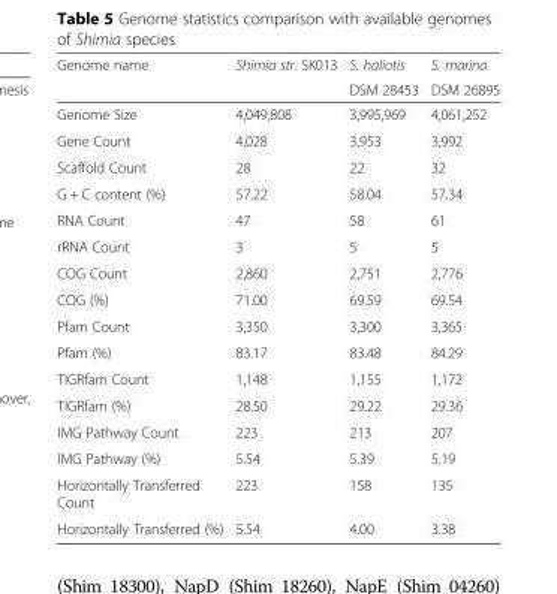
<table><thead><tr><td rowspan="2">Genome name</td><td rowspan="2">Shimia str. SK013</td><td rowspan="2">S. haliotis DSM 28453</td><td rowspan="2">S. marina DSM 26895</td></tr><tr></tr></thead><tbody><tr><td>Genome Size</td><td>4,049,808</td><td>3,995,969</td><td>4,061,252</td></tr><tr><td>Gene Count</td><td>4,028</td><td>3,953</td><td>3,992</td></tr><tr><td>Scaffold Count</td><td>28</td><td>22</td><td>32</td></tr><tr><td>G + C content (%)</td><td>57.22</td><td>58.04</td><td>57.34</td></tr><tr><td>RNA Count</td><td>47</td><td>58</td><td>61</td></tr><tr><td>rRNA Count</td><td>3</td><td>5</td><td>5</td></tr><tr><td>COG Count</td><td>2,860</td><td>2,751</td><td>2,776</td></tr><tr><td>COG (%)</td><td>71.00</td><td>69.59</td><td>69.54</td></tr><tr><td>Pfam Count</td><td>3,350</td><td>3,300</td><td>3,365</td></tr><tr><td>Pfam (%)</td><td>83.17</td><td>83.48</td><td>84.29</td></tr><tr><td>TIGRfam Count</td><td>1,148</td><td>1,155</td><td>1,172</td></tr><tr><td>TIGRfam (%)</td><td>28.50</td><td>29.22</td><td>29.36</td></tr><tr><td>IMG Pathway Count</td><td>223</td><td>213</td><td>207</td></tr><tr><td>IMG Pathway (%)</td><td>5.54</td><td>5.39</td><td>5.19</td></tr><tr><td>Horizontally Transferred Count</td><td>223</td><td>158</td><td>135</td></tr><tr><td>Horizontally Transferred (%)</td><td>5.54</td><td>4.00</td><td>3.38</td></tr></tbody></table>